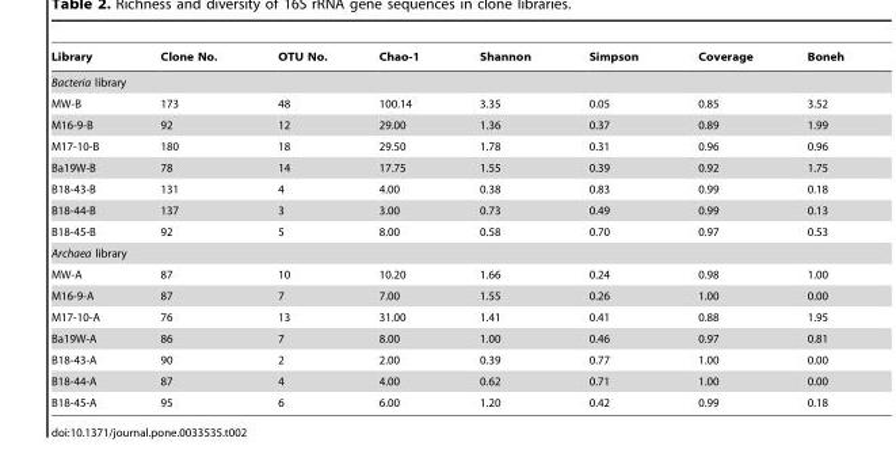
<table><thead><tr><td>Library</td><td>Clone No.</td><td>OTU No.</td><td>Chao-1</td><td>Shannon</td><td>Simpson</td><td>Coverage</td><td>Boneh</td></tr></thead><tbody><tr><td colspan="8">Bacteria library</td></tr><tr><td>MW-B</td><td>173</td><td>48</td><td>100.14</td><td>3.35</td><td>0.05</td><td>0.85</td><td>3.52</td></tr><tr><td>M16-9-B</td><td>92</td><td>12</td><td>29.00</td><td>1.36</td><td>0.37</td><td>0.89</td><td>1.99</td></tr><tr><td>M17-10-B</td><td>180</td><td>18</td><td>29.50</td><td>1.78</td><td>0.31</td><td>0.96</td><td>0.96</td></tr><tr><td>Ba19W-B</td><td>78</td><td>14</td><td>17.75</td><td>1.55</td><td>0.39</td><td>0.92</td><td>1.75</td></tr><tr><td>B18-43-B</td><td>131</td><td>4</td><td>4.00</td><td>0.38</td><td>0.83</td><td>0.99</td><td>0.18</td></tr><tr><td>B18-44-B</td><td>137</td><td>3</td><td>3.00</td><td>0.73</td><td>0.49</td><td>0.99</td><td>0.13</td></tr><tr><td>B18-45-B</td><td>92</td><td>5</td><td>8.00</td><td>0.58</td><td>0.70</td><td>0.97</td><td>0.53</td></tr><tr><td colspan="8">Archaea library</td></tr><tr><td>MW-A</td><td>87</td><td>10</td><td>10.20</td><td>1.66</td><td>0.24</td><td>0.98</td><td>1.00</td></tr><tr><td>M16-9-A</td><td>87</td><td>7</td><td>7.00</td><td>1.55</td><td>0.26</td><td>1.00</td><td>0.00</td></tr><tr><td>M17-10-A</td><td>76</td><td>13</td><td>31.00</td><td>1.41</td><td>0.41</td><td>0.88</td><td>1.95</td></tr><tr><td>Ba19W-A</td><td>86</td><td>7</td><td>8.00</td><td>1.00</td><td>0.46</td><td>0.97</td><td>0.81</td></tr><tr><td>B18-43-A</td><td>90</td><td>2</td><td>2.00</td><td>0.39</td><td>0.77</td><td>1.00</td><td>0.00</td></tr><tr><td>B18-44-A</td><td>87</td><td>4</td><td>4.00</td><td>0.62</td><td>0.71</td><td>1.00</td><td>0.00</td></tr><tr><td>B18-45-A</td><td>95</td><td>6</td><td>6.00</td><td>1.20</td><td>0.42</td><td>0.99</td><td>0.18</td></tr></tbody></table>